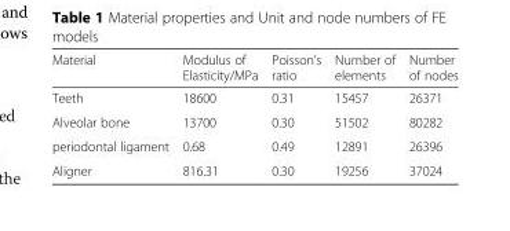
<table><thead><tr><td>Material</td><td>Modulus of Elasticity/MPa</td><td>Poisson’s ratio</td><td>Number of elements</td><td>Number of nodes</td></tr></thead><tbody><tr><td>Teeth</td><td>18600</td><td>0.31</td><td>15457</td><td>26371</td></tr><tr><td>Alveolar bone</td><td>13700</td><td>0.30</td><td>51502</td><td>80282</td></tr><tr><td>periodontal ligament</td><td>0.68</td><td>0.49</td><td>12891</td><td>26396</td></tr><tr><td>Aligner</td><td>816.31</td><td>0.30</td><td>19256</td><td>37024</td></tr></tbody></table>